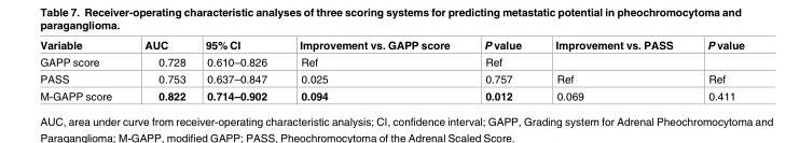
<table><thead><tr><td>Variable</td><td>AUC</td><td>95% CI</td><td>Improvement vs. GAPP score</td><td>P value</td><td>Improvement vs. PASS</td><td>P value</td></tr></thead><tbody><tr><td>GAPP score</td><td>0.728</td><td>0.610–0.826</td><td>Ref</td><td>Ref</td><td></td><td></td></tr><tr><td>PASS</td><td>0.753</td><td>0.637–0.847</td><td>0.025</td><td>0.757</td><td>Ref</td><td>Ref</td></tr><tr><td>M-GAPP score</td><td>0.822</td><td>0.714–0.902</td><td>0.094</td><td>0.012</td><td>0.069</td><td>0.411</td></tr></tbody></table>